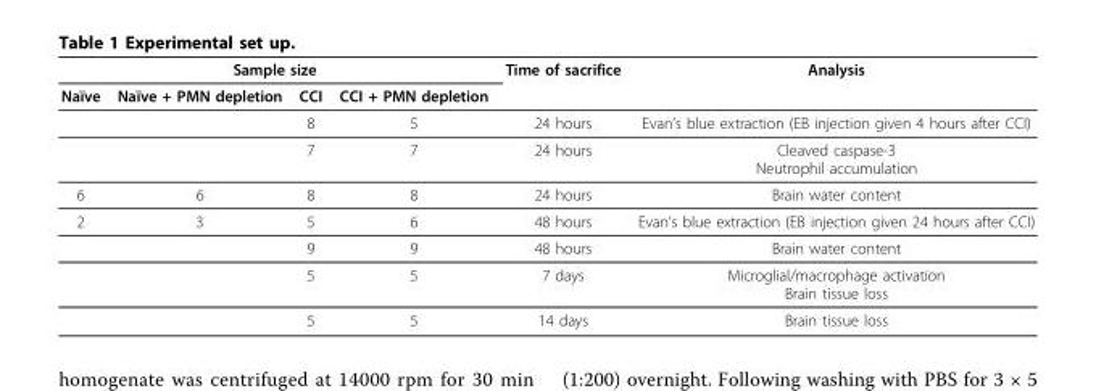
<table><thead><tr><td colspan="4">Sample size</td><td rowspan="2">Time of sacrifice</td><td rowspan="2">Analysis</td></tr><tr><td>Naïve</td><td>Naïve + PMN depletion</td><td>CCI</td><td>CCI + PMN depletion</td></tr></thead><tbody><tr><td></td><td></td><td>8</td><td>5</td><td>24 hours</td><td>Evan’s blue extraction (EB injection given 4 hours after CCI)</td></tr><tr><td></td><td></td><td>7</td><td>7</td><td>24 hours</td><td>Cleaved caspase-3 Neutrophil accumulation</td></tr><tr><td>6</td><td>6</td><td>8</td><td>8</td><td>24 hours</td><td>Brain water content</td></tr><tr><td rowspan="4">2</td><td>3</td><td>5</td><td>6</td><td>48 hours</td><td>Evan’s blue extraction (EB injection given 24 hours after CCI)</td></tr><tr><td></td><td>9</td><td>9</td><td>48 hours</td><td>Brain water content</td></tr><tr><td></td><td>5</td><td>5</td><td>7 days</td><td>Microglial/macrophage activation Brain tissue loss</td></tr><tr><td></td><td>5</td><td>5</td><td>14 days</td><td>Brain tissue loss</td></tr></tbody></table>